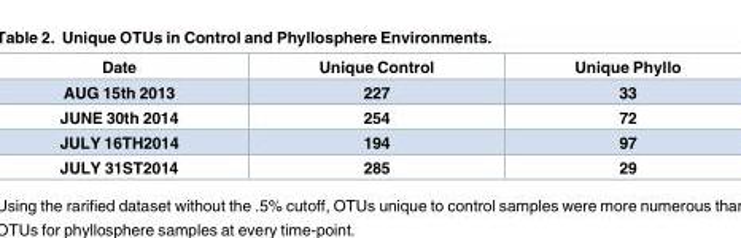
<table><thead><tr><td>Date</td><td>Unique Control</td><td>Unique Phyllo</td></tr></thead><tbody><tr><td>AUG 15th 2013</td><td>227</td><td>33</td></tr><tr><td>JUNE 30th 2014</td><td>254</td><td>72</td></tr><tr><td>JULY 16TH2014</td><td>194</td><td>97</td></tr><tr><td>JULY 31ST2014</td><td>285</td><td>29</td></tr></tbody></table>